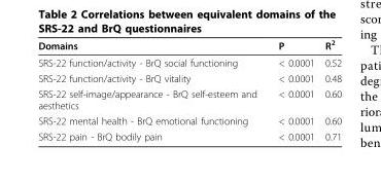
<table><thead><tr><td>Domains</td><td>P</td><td>R<sup>2</sup></td></tr></thead><tbody><tr><td>SRS-22 function/activity - BrQ social functioning</td><td>&lt; 0.0001</td><td>0.52</td></tr><tr><td>SRS-22 function/activity - BrQ vitality</td><td>&lt; 0.0001</td><td>0.48</td></tr><tr><td>SRS-22 self-image/appearance - BrQ self-esteem and aesthetics</td><td>&lt; 0.0001</td><td>0.60</td></tr><tr><td>SRS-22 mental health - BrQ emotional functioning</td><td>&lt; 0.0001</td><td>0.60</td></tr><tr><td>SRS-22 pain - BrQ bodily pain</td><td>&lt; 0.0001</td><td>0.71</td></tr></tbody></table>